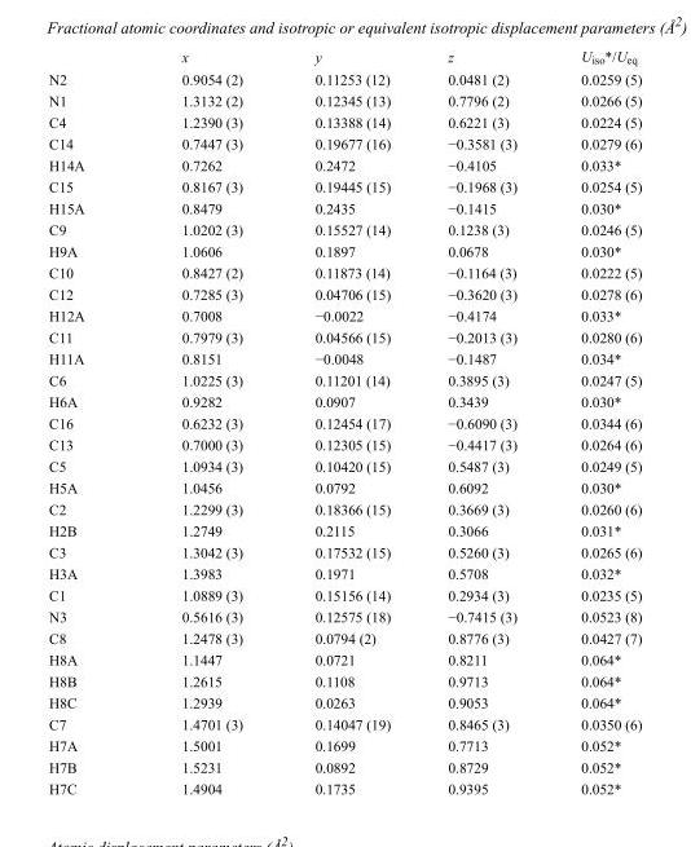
<table><thead><tr><td></td><td>x</td><td>y</td><td>z</td><td>U<sub>iso</sub>*/U<sub>eq</sub></td></tr></thead><tbody><tr><td>N2</td><td>0.9054 (2)</td><td>0.11253 (12)</td><td>0.0481 (2)</td><td>0.0259 (5)</td></tr><tr><td>N1</td><td>1.3132 (2)</td><td>0.12345 (13)</td><td>0.7796 (2)</td><td>0.0266 (5)</td></tr><tr><td>C4</td><td>1.2390 (3)</td><td>0.13388 (14)</td><td>0.6221 (3)</td><td>0.0224 (5)</td></tr><tr><td>C14</td><td>0.7447 (3)</td><td>0.19677 (16)</td><td>−0.3581 (3)</td><td>0.0279 (6)</td></tr><tr><td>H14A</td><td>0.7262</td><td>0.2472</td><td>−0.4105</td><td>0.033*</td></tr><tr><td>C15</td><td>0.8167 (3)</td><td>0.19445 (15)</td><td>−0.1968 (3)</td><td>0.0254 (5)</td></tr><tr><td>H15A</td><td>0.8479</td><td>0.2435</td><td>−0.1415</td><td>0.030*</td></tr><tr><td>C9</td><td>1.0202 (3)</td><td>0.15527 (14)</td><td>0.1238 (3)</td><td>0.0246 (5)</td></tr><tr><td>H9A</td><td>1.0606</td><td>0.1897</td><td>0.0678</td><td>0.030*</td></tr><tr><td>C10</td><td>0.8427 (2)</td><td>0.11873 (14)</td><td>−0.1164 (3)</td><td>0.0222 (5)</td></tr><tr><td>C12</td><td>0.7285 (3)</td><td>0.04706 (15)</td><td>−0.3620 (3)</td><td>0.0278 (6)</td></tr><tr><td>H12A</td><td>0.7008</td><td>−0.0022</td><td>−0.4174</td><td>0.033*</td></tr><tr><td>C11</td><td>0.7979 (3)</td><td>0.04566 (15)</td><td>−0.2013 (3)</td><td>0.0280 (6)</td></tr><tr><td>H11A</td><td>0.8151</td><td>−0.0048</td><td>−0.1487</td><td>0.034*</td></tr><tr><td>C6</td><td>1.0225 (3)</td><td>0.11201 (14)</td><td>0.3895 (3)</td><td>0.0247 (5)</td></tr><tr><td>H6A</td><td>0.9282</td><td>0.0907</td><td>0.3439</td><td>0.030*</td></tr><tr><td>C16</td><td>0.6232 (3)</td><td>0.12454 (17)</td><td>−0.6090 (3)</td><td>0.0344 (6)</td></tr><tr><td>C13</td><td>0.7000 (3)</td><td>0.12305 (15)</td><td>−0.4417 (3)</td><td>0.0264 (6)</td></tr><tr><td>C5</td><td>1.0934 (3)</td><td>0.10420 (15)</td><td>0.5487 (3)</td><td>0.0249 (5)</td></tr><tr><td>H5A</td><td>1.0456</td><td>0.0792</td><td>0.6092</td><td>0.030*</td></tr><tr><td>C2</td><td>1.2299 (3)</td><td>0.18366 (15)</td><td>0.3669 (3)</td><td>0.0260 (6)</td></tr><tr><td>H2B</td><td>1.2749</td><td>0.2115</td><td>0.3066</td><td>0.031*</td></tr><tr><td>C3</td><td>1.3042 (3)</td><td>0.17532 (15)</td><td>0.5260 (3)</td><td>0.0265 (6)</td></tr><tr><td>H3A</td><td>1.3983</td><td>0.1971</td><td>0.5708</td><td>0.032*</td></tr><tr><td>C1</td><td>1.0889 (3)</td><td>0.15156 (14)</td><td>0.2934 (3)</td><td>0.0235 (5)</td></tr><tr><td>N3</td><td>0.5616 (3)</td><td>0.12575 (18)</td><td>−0.7415 (3)</td><td>0.0523 (8)</td></tr><tr><td>C8</td><td>1.2478 (3)</td><td>0.0794 (2)</td><td>0.8776 (3)</td><td>0.0427 (7)</td></tr><tr><td>H8A</td><td>1.1447</td><td>0.0721</td><td>0.8211</td><td>0.064*</td></tr><tr><td>H8B</td><td>1.2615</td><td>0.1108</td><td>0.9713</td><td>0.064*</td></tr><tr><td>H8C</td><td>1.2939</td><td>0.0263</td><td>0.9053</td><td>0.064*</td></tr><tr><td>C7</td><td>1.4701 (3)</td><td>0.14047 (19)</td><td>0.8465 (3)</td><td>0.0350 (6)</td></tr><tr><td>H7A</td><td>1.5001</td><td>0.1699</td><td>0.7713</td><td>0.052*</td></tr><tr><td>H7B</td><td>1.5231</td><td>0.0892</td><td>0.8729</td><td>0.052*</td></tr><tr><td>H7C</td><td>1.4904</td><td>0.1735</td><td>0.9395</td><td>0.052*</td></tr></tbody></table>